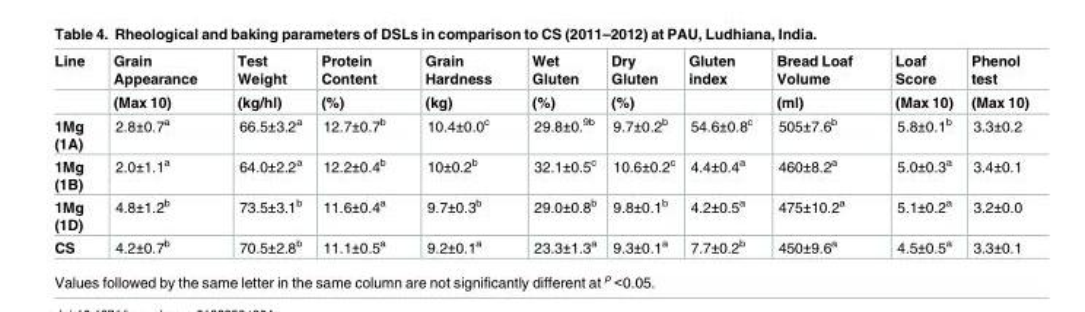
<table><thead><tr><td rowspan="2">Line</td><td rowspan="2">Grain Appearance (Max 10)</td><td rowspan="2">Test Weight (kg/hl)</td><td rowspan="2">Protein Content (%)</td><td rowspan="2">Grain Hardness (kg)</td><td rowspan="2">Wet Gluten (%)</td><td rowspan="2">Dry Gluten (%)</td><td rowspan="2">Gluten index</td><td rowspan="2">Bread Loaf Volume (ml)</td><td rowspan="2">Loaf Score (Max 10)</td><td rowspan="2">Phenol test (Max 10)</td></tr><tr></tr></thead><tbody><tr><td>1Mg (1A)</td><td>2.8±0.7<sup>a</sup></td><td>66.5±3.2<sup>a</sup></td><td>12.7±0.7<sup>b</sup></td><td>10.4±0.0<sup>c</sup></td><td>29.8±0.<sup>9b</sup></td><td>9.7±0.2<sup>b</sup></td><td>54.6±0.8<sup>c</sup></td><td>505±7.6<sup>b</sup></td><td>5.8±0.1<sup>b</sup></td><td>3.3±0.2</td></tr><tr><td>1Mg (1B)</td><td>2.0±1.1<sup>a</sup></td><td>64.0±2.2<sup>a</sup></td><td>12.2±0.4<sup>b</sup></td><td>10±0.2<sup>b</sup></td><td>32.1±0.5<sup>c</sup></td><td>10.6±0.2<sup>c</sup></td><td>4.4±0.4<sup>a</sup></td><td>460±8.2<sup>a</sup></td><td>5.0±0.3<sup>a</sup></td><td>3.4±0.1</td></tr><tr><td>1Mg (1D)</td><td>4.8±1.2<sup>b</sup></td><td>73.5±3.1<sup>b</sup></td><td>11.6±0.4<sup>a</sup></td><td>9.7±0.3<sup>b</sup></td><td>29.0±0.8<sup>b</sup></td><td>9.8±0.1<sup>b</sup></td><td>4.2±0.5<sup>a</sup></td><td>475±10.2<sup>a</sup></td><td>5.1±0.2<sup>a</sup></td><td>3.2±0.0</td></tr><tr><td>CS</td><td>4.2±0.7<sup>b</sup></td><td>70.5±2.8<sup>b</sup></td><td>11.1±0.5<sup>a</sup></td><td>9.2±0.1<sup>a</sup></td><td>23.3±1.3<sup>a</sup></td><td>9.3±0.1<sup>a</sup></td><td>7.7±0.2<sup>b</sup></td><td>450±9.6<sup>a</sup></td><td>4.5±0.5<sup>a</sup></td><td>3.3±0.1</td></tr></tbody></table>